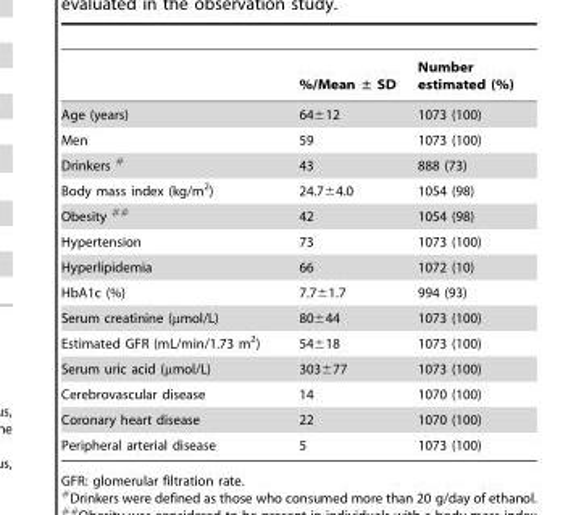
<table><thead><tr><td></td><td>%/Mean ± SD</td><td>Number estimated (%)</td></tr></thead><tbody><tr><td>Age (years)</td><td>64±12</td><td>1073 (100)</td></tr><tr><td>Men</td><td>59</td><td>1073 (100)</td></tr><tr><td>Drinkers #</td><td>43</td><td>888 (73)</td></tr><tr><td>Body mass index (kg/m<sup>2</sup>)</td><td>24.7±4.0</td><td>1054 (98)</td></tr><tr><td>Obesity ##</td><td>42</td><td>1054 (98)</td></tr><tr><td>Hypertension</td><td>73</td><td>1073 (100)</td></tr><tr><td>Hyperlipidemia</td><td>66</td><td>1072 (10)</td></tr><tr><td>HbA1c (%)</td><td>7.7±1.7</td><td>994 (93)</td></tr><tr><td>Serum creatinine (μmol/L)</td><td>80±44</td><td>1073 (100)</td></tr><tr><td>Estimated GFR (mL/min/1.73 m<sup>2</sup>)</td><td>54±18</td><td>1073 (100)</td></tr><tr><td>Serum uric acid (μmol/L)</td><td>303±77</td><td>1073 (100)</td></tr><tr><td>Cerebrovascular disease</td><td>14</td><td>1070 (100)</td></tr><tr><td>Coronary heart disease</td><td>22</td><td>1070 (100)</td></tr><tr><td>Peripheral arterial disease</td><td>5</td><td>1073 (100)</td></tr></tbody></table>